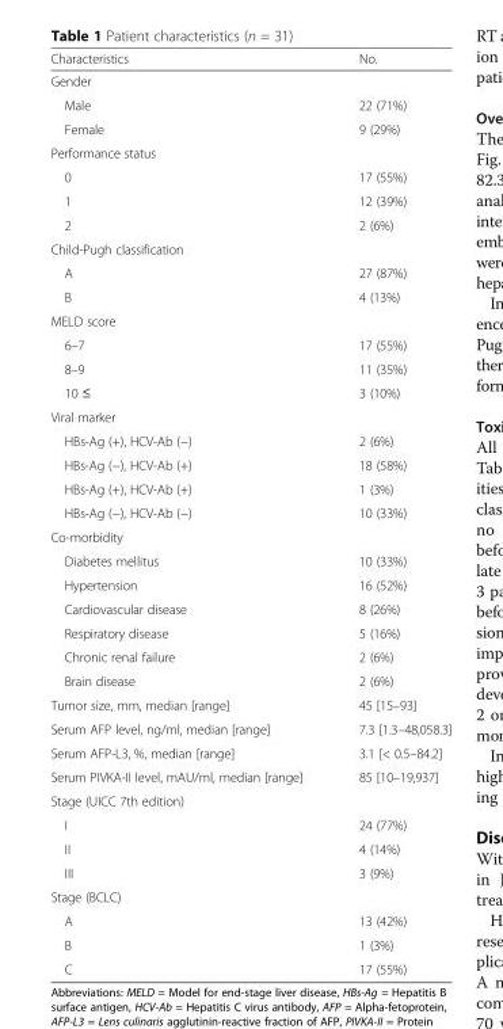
<table><thead><tr><td>Characteristics</td><td>No.</td></tr></thead><tbody><tr><td colspan="2">Gender</td></tr><tr><td>Male</td><td>22 (71%)</td></tr><tr><td>Female</td><td>9 (29%)</td></tr><tr><td colspan="2">Performance status</td></tr><tr><td>0</td><td>17 (55%)</td></tr><tr><td>1</td><td>12 (39%)</td></tr><tr><td>2</td><td>2 (6%)</td></tr><tr><td colspan="2">Child-Pugh classification</td></tr><tr><td>A</td><td>27 (87%)</td></tr><tr><td>B</td><td>4 (13%)</td></tr><tr><td colspan="2">MELD score</td></tr><tr><td>6–7</td><td>17 (55%)</td></tr><tr><td>8–9</td><td>11 (35%)</td></tr><tr><td>10 ≤</td><td>3 (10%)</td></tr><tr><td colspan="2">Viral marker</td></tr><tr><td>HBs-Ag (+), HCV-Ab (−)</td><td>2 (6%)</td></tr><tr><td>HBs-Ag (−), HCV-Ab (+)</td><td>18 (58%)</td></tr><tr><td>HBs-Ag (+), HCV-Ab (+)</td><td>1 (3%)</td></tr><tr><td>HBs-Ag (−), HCV-Ab (−)</td><td>10 (33%)</td></tr><tr><td colspan="2">Co-morbidity</td></tr><tr><td>Diabetes mellitus</td><td>10 (33%)</td></tr><tr><td>Hypertension</td><td>16 (52%)</td></tr><tr><td>Cardiovascular disease</td><td>8 (26%)</td></tr><tr><td>Respiratory disease</td><td>5 (16%)</td></tr><tr><td>Chronic renal failure</td><td>2 (6%)</td></tr><tr><td>Brain disease</td><td>2 (6%)</td></tr><tr><td>Tumor size, mm, median [range]</td><td>45 [15–93]</td></tr><tr><td>Serum AFP level, ng/ml, median [range]</td><td>7.3 [1.3–48,058.3]</td></tr><tr><td>Serum AFP-L3, %, median [range]</td><td>3.1 [&lt; 0.5–84.2]</td></tr><tr><td>Serum PIVKA-II level, mAU/ml, median [range]</td><td>85 [10–19,937]</td></tr><tr><td colspan="2">Stage (UICC 7th edition)</td></tr><tr><td>I</td><td>24 (77%)</td></tr><tr><td>II</td><td>4 (14%)</td></tr><tr><td>III</td><td>3 (9%)</td></tr><tr><td colspan="2">Stage (BCLC)</td></tr><tr><td>A</td><td>13 (42%)</td></tr><tr><td>B</td><td>1 (3%)</td></tr><tr><td>C</td><td>17 (55%)</td></tr></tbody></table>